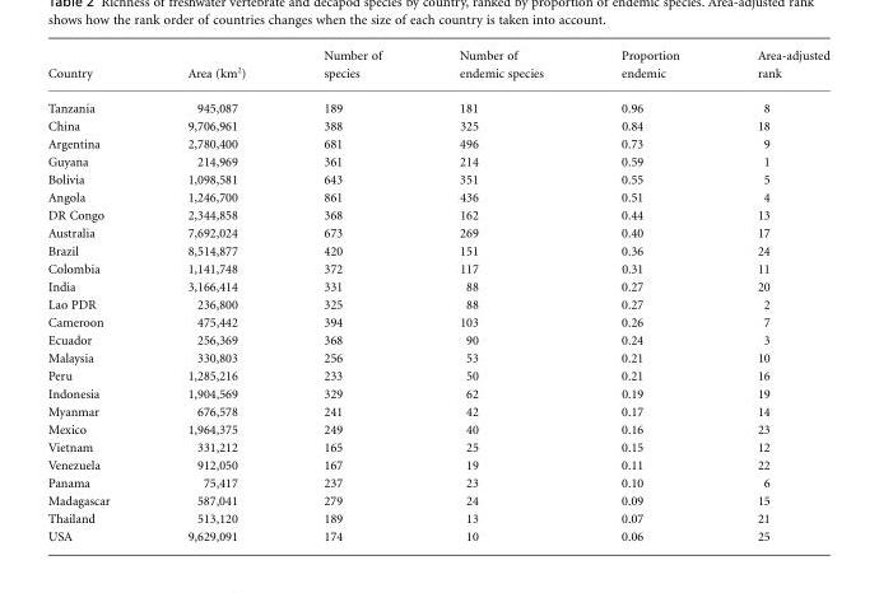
<table><thead><tr><td>Country</td><td>Area (km<sup>2</sup>)</td><td>Number of species</td><td>Number of endemic species</td><td>Proportion endemic</td><td>Area-adjusted rank</td></tr></thead><tbody><tr><td>Tanzania</td><td>945,087</td><td>189</td><td>181</td><td>0.96</td><td>8</td></tr><tr><td>China</td><td>9,706,961</td><td>388</td><td>325</td><td>0.84</td><td>18</td></tr><tr><td>Argentina</td><td>2,780,400</td><td>681</td><td>496</td><td>0.73</td><td>9</td></tr><tr><td>Guyana</td><td>214,969</td><td>361</td><td>214</td><td>0.59</td><td>1</td></tr><tr><td>Bolivia</td><td>1,098,581</td><td>643</td><td>351</td><td>0.55</td><td>5</td></tr><tr><td>Angola</td><td>1,246,700</td><td>861</td><td>436</td><td>0.51</td><td>4</td></tr><tr><td>DR Congo</td><td>2,344,858</td><td>368</td><td>162</td><td>0.44</td><td>13</td></tr><tr><td>Australia</td><td>7,692,024</td><td>673</td><td>269</td><td>0.40</td><td>17</td></tr><tr><td>Brazil</td><td>8,514,877</td><td>420</td><td>151</td><td>0.36</td><td>24</td></tr><tr><td>Colombia</td><td>1,141,748</td><td>372</td><td>117</td><td>0.31</td><td>11</td></tr><tr><td>India</td><td>3,166,414</td><td>331</td><td>88</td><td>0.27</td><td>20</td></tr><tr><td>Lao PDR</td><td>236,800</td><td>325</td><td>88</td><td>0.27</td><td>2</td></tr><tr><td>Cameroon</td><td>475,442</td><td>394</td><td>103</td><td>0.26</td><td>7</td></tr><tr><td>Ecuador</td><td>256,369</td><td>368</td><td>90</td><td>0.24</td><td>3</td></tr><tr><td>Malaysia</td><td>330,803</td><td>256</td><td>53</td><td>0.21</td><td>10</td></tr><tr><td>Peru</td><td>1,285,216</td><td>233</td><td>50</td><td>0.21</td><td>16</td></tr><tr><td>Indonesia</td><td>1,904,569</td><td>329</td><td>62</td><td>0.19</td><td>19</td></tr><tr><td>Myanmar</td><td>676,578</td><td>241</td><td>42</td><td>0.17</td><td>14</td></tr><tr><td>Mexico</td><td>1,964,375</td><td>249</td><td>40</td><td>0.16</td><td>23</td></tr><tr><td>Vietnam</td><td>331,212</td><td>165</td><td>25</td><td>0.15</td><td>12</td></tr><tr><td>Venezuela</td><td>912,050</td><td>167</td><td>19</td><td>0.11</td><td>22</td></tr><tr><td>Panama</td><td>75,417</td><td>237</td><td>23</td><td>0.10</td><td>6</td></tr><tr><td>Madagascar</td><td>587,041</td><td>279</td><td>24</td><td>0.09</td><td>15</td></tr><tr><td>Thailand</td><td>513,120</td><td>189</td><td>13</td><td>0.07</td><td>21</td></tr><tr><td>USA</td><td>9,629,091</td><td>174</td><td>10</td><td>0.06</td><td>25</td></tr></tbody></table>